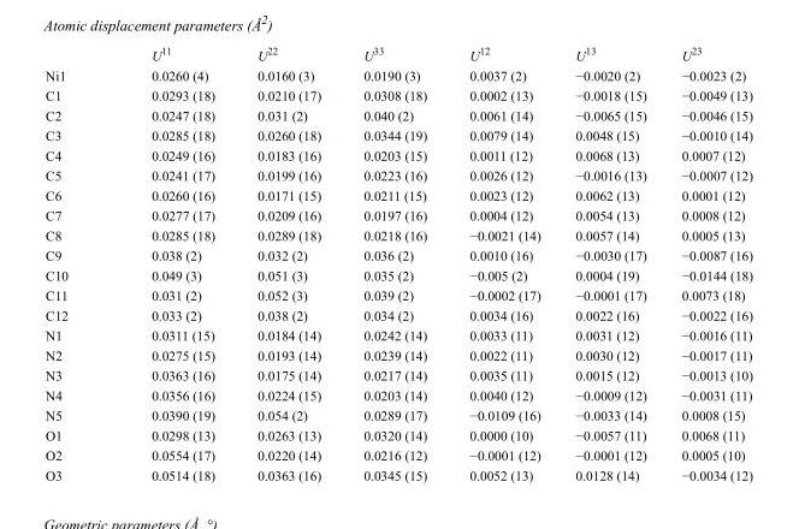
<table><thead><tr><td></td><td>U<sup>11</sup></td><td>U<sup>22</sup></td><td>U<sup>33</sup></td><td>U<sup>12</sup></td><td>U<sup>13</sup></td><td>U<sup>23</sup></td></tr></thead><tbody><tr><td>Ni1</td><td>0.0260 (4)</td><td>0.0160 (3)</td><td>0.0190 (3)</td><td>0.0037 (2)</td><td>−0.0020 (2)</td><td>−0.0023 (2)</td></tr><tr><td>C1</td><td>0.0293 (18)</td><td>0.0210 (17)</td><td>0.0308 (18)</td><td>0.0002 (13)</td><td>−0.0018 (15)</td><td>−0.0049 (13)</td></tr><tr><td>C2</td><td>0.0247 (18)</td><td>0.031 (2)</td><td>0.040 (2)</td><td>0.0061 (14)</td><td>−0.0065 (15)</td><td>−0.0046 (15)</td></tr><tr><td>C3</td><td>0.0285 (18)</td><td>0.0260 (18)</td><td>0.0344 (19)</td><td>0.0079 (14)</td><td>0.0048 (15)</td><td>−0.0010 (14)</td></tr><tr><td>C4</td><td>0.0249 (16)</td><td>0.0183 (16)</td><td>0.0203 (15)</td><td>0.0011 (12)</td><td>0.0068 (13)</td><td>0.0007 (12)</td></tr><tr><td>C5</td><td>0.0241 (17)</td><td>0.0199 (16)</td><td>0.0223 (16)</td><td>0.0026 (12)</td><td>−0.0016 (13)</td><td>−0.0007 (12)</td></tr><tr><td>C6</td><td>0.0260 (16)</td><td>0.0171 (15)</td><td>0.0211 (15)</td><td>0.0023 (12)</td><td>0.0062 (13)</td><td>0.0001 (12)</td></tr><tr><td>C7</td><td>0.0277 (17)</td><td>0.0209 (16)</td><td>0.0197 (16)</td><td>0.0004 (12)</td><td>0.0054 (13)</td><td>0.0008 (12)</td></tr><tr><td>C8</td><td>0.0285 (18)</td><td>0.0289 (18)</td><td>0.0218 (16)</td><td>−0.0021 (14)</td><td>0.0057 (14)</td><td>0.0005 (13)</td></tr><tr><td>C9</td><td>0.038 (2)</td><td>0.032 (2)</td><td>0.036 (2)</td><td>0.0010 (16)</td><td>−0.0030 (17)</td><td>−0.0087 (16)</td></tr><tr><td>C10</td><td>0.049 (3)</td><td>0.051 (3)</td><td>0.035 (2)</td><td>−0.005 (2)</td><td>0.0004 (19)</td><td>−0.0144 (18)</td></tr><tr><td>C11</td><td>0.031 (2)</td><td>0.052 (3)</td><td>0.039 (2)</td><td>−0.0002 (17)</td><td>−0.0001 (17)</td><td>0.0073 (18)</td></tr><tr><td>C12</td><td>0.033 (2)</td><td>0.038 (2)</td><td>0.034 (2)</td><td>0.0034 (16)</td><td>0.0022 (16)</td><td>−0.0022 (16)</td></tr><tr><td>N1</td><td>0.0311 (15)</td><td>0.0184 (14)</td><td>0.0242 (14)</td><td>0.0033 (11)</td><td>0.0031 (12)</td><td>−0.0016 (11)</td></tr><tr><td>N2</td><td>0.0275 (15)</td><td>0.0193 (14)</td><td>0.0239 (14)</td><td>0.0022 (11)</td><td>0.0030 (12)</td><td>−0.0017 (11)</td></tr><tr><td>N3</td><td>0.0363 (16)</td><td>0.0175 (14)</td><td>0.0217 (14)</td><td>0.0035 (11)</td><td>0.0015 (12)</td><td>−0.0013 (10)</td></tr><tr><td>N4</td><td>0.0356 (16)</td><td>0.0224 (15)</td><td>0.0203 (14)</td><td>0.0040 (12)</td><td>−0.0009 (12)</td><td>−0.0031 (11)</td></tr><tr><td>N5</td><td>0.0390 (19)</td><td>0.054 (2)</td><td>0.0289 (17)</td><td>−0.0109 (16)</td><td>−0.0033 (14)</td><td>0.0008 (15)</td></tr><tr><td>O1</td><td>0.0298 (13)</td><td>0.0263 (13)</td><td>0.0320 (14)</td><td>0.0000 (10)</td><td>−0.0057 (11)</td><td>0.0068 (11)</td></tr><tr><td>O2</td><td>0.0554 (17)</td><td>0.0220 (14)</td><td>0.0216 (12)</td><td>−0.0001 (12)</td><td>−0.0001 (12)</td><td>0.0005 (10)</td></tr><tr><td>O3</td><td>0.0514 (18)</td><td>0.0363 (16)</td><td>0.0345 (15)</td><td>0.0052 (13)</td><td>0.0128 (14)</td><td>−0.0034 (12)</td></tr></tbody></table>